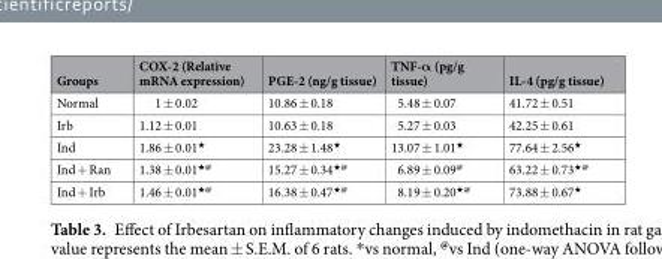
<table><thead><tr><td>Groups</td><td>COX-2 (Relative mRNA expression)</td><td>PGE-2 (ng/g tissue)</td><td>TNF-α (pg/g tissue)</td><td>IL-4 (pg/g tissue)</td></tr></thead><tbody><tr><td>Normal</td><td>1 ± 0.02</td><td>10.86 ± 0.18</td><td>5.48 ± 0.07</td><td>41.72 ± 0.51</td></tr><tr><td>Irb</td><td>1.12 ± 0.01</td><td>10.63 ± 0.18</td><td>5.27 ± 0.03</td><td>42.25 ± 0.61</td></tr><tr><td>Ind</td><td>1.86 ± 0.01<sup>★</sup></td><td>23.28 ± 1.48<sup>★</sup></td><td>13.07 ± 1.01<sup>★</sup></td><td>77.64 ± 2.56<sup>★</sup></td></tr><tr><td>Ind + Ran</td><td>1.38 ± 0.01<sup>★@</sup></td><td>15.27 ± 0.34<sup>★@</sup></td><td>6.89 ± 0.09<sup>@</sup></td><td>63.22 ± 0.73<sup>★@</sup></td></tr><tr><td>Ind + Irb</td><td>1.46 ± 0.01<sup>★@</sup></td><td>16.38 ± 0.47<sup>★@</sup></td><td>8.19 ± 0.20<sup>★@</sup></td><td>73.88 ± 0.67<sup>★</sup></td></tr></tbody></table>